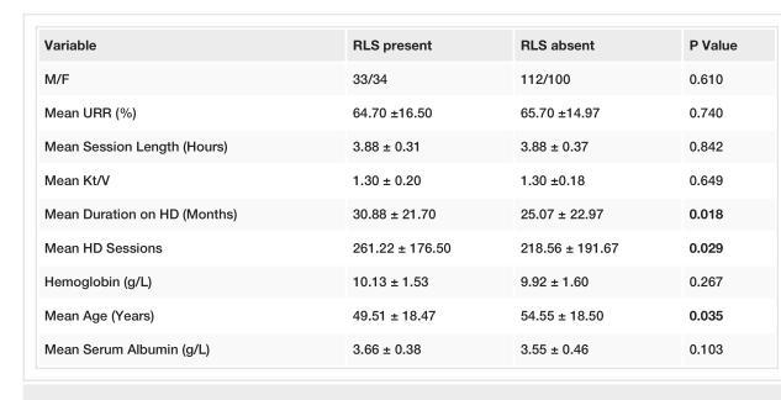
<table><tbody><tr><td>Variable</td><td>RLS present</td><td>RLS absent</td><td>P Value</td></tr><tr><td>M/F</td><td>33/34</td><td>112/100</td><td>0.610</td></tr><tr><td>Mean URR (%)</td><td>64.70 ±16.50</td><td>65.70 ±14.97</td><td>0.740</td></tr><tr><td>Mean Session Length (Hours)</td><td>3.88 ± 0.31</td><td>3.88 ± 0.37</td><td>0.842</td></tr><tr><td>Mean Kt/V</td><td>1.30 ± 0.20</td><td>1.30 ±0.18</td><td>0.649</td></tr><tr><td>Mean Duration on HD (Months)</td><td>30.88 ± 21.70</td><td>25.07 ± 22.97</td><td>0.018</td></tr><tr><td>Mean HD Sessions</td><td>261.22 ± 176.50</td><td>218.56 ± 191.67</td><td>0.029</td></tr><tr><td>Hemoglobin (g/L)</td><td>10.13 ± 1.53</td><td>9.92 ± 1.60</td><td>0.267</td></tr><tr><td>Mean Age (Years)</td><td>49.51 ± 18.47</td><td>54.55 ± 18.50</td><td>0.035</td></tr><tr><td>Mean Serum Albumin (g/L)</td><td>3.66 ± 0.38</td><td>3.55 ± 0.46</td><td>0.103</td></tr></tbody></table>